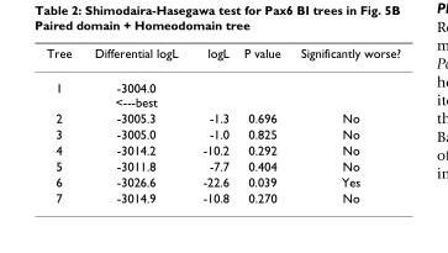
<table><thead><tr><td>Tree</td><td>Differential logL</td><td>logL</td><td>P value</td><td>Significantly worse?</td></tr></thead><tbody><tr><td>1</td><td>-3004.0 &lt;---best</td><td></td><td></td><td></td></tr><tr><td>2</td><td>-3005.3</td><td>-1.3</td><td>0.696</td><td>No</td></tr><tr><td>3</td><td>-3005.0</td><td>-1.0</td><td>0.825</td><td>No</td></tr><tr><td>4</td><td>-3014.2</td><td>-10.2</td><td>0.292</td><td>No</td></tr><tr><td>5</td><td>-3011.8</td><td>-7.7</td><td>0.404</td><td>No</td></tr><tr><td>6</td><td>-3026.6</td><td>-22.6</td><td>0.039</td><td>Yes</td></tr><tr><td>7</td><td>-3014.9</td><td>-10.8</td><td>0.270</td><td>No</td></tr></tbody></table>